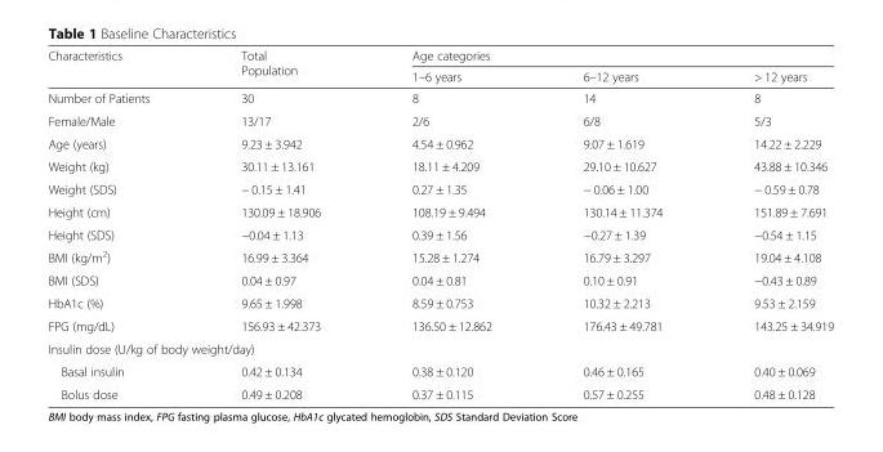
<table><thead><tr><td rowspan="2">Characteristics</td><td rowspan="2">Total Population</td><td colspan="3">Age categories</td></tr><tr><td>1–6 years</td><td>6–12 years</td><td>&gt; 12 years</td></tr></thead><tbody><tr><td>Number of Patients</td><td>30</td><td>8</td><td>14</td><td>8</td></tr><tr><td>Female/Male</td><td>13/17</td><td>2/6</td><td>6/8</td><td>5/3</td></tr><tr><td>Age (years)</td><td>9.23 ± 3.942</td><td>4.54 ± 0.962</td><td>9.07 ± 1.619</td><td>14.22 ± 2.229</td></tr><tr><td>Weight (kg)</td><td>30.11 ± 13.161</td><td>18.11 ± 4.209</td><td>29.10 ± 10.627</td><td>43.88 ± 10.346</td></tr><tr><td>Weight (SDS)</td><td>− 0.15 ± 1.41</td><td>0.27 ± 1.35</td><td>− 0.06 ± 1.00</td><td>− 0.59 ± 0.78</td></tr><tr><td>Height (cm)</td><td>130.09 ± 18.906</td><td>108.19 ± 9.494</td><td>130.14 ± 11.374</td><td>151.89 ± 7.691</td></tr><tr><td>Height (SDS)</td><td>−0.04 ± 1.13</td><td>0.39 ± 1.56</td><td>−0.27 ± 1.39</td><td>−0.54 ± 1.15</td></tr><tr><td>BMI (kg/m<sup>2</sup>)</td><td>16.99 ± 3.364</td><td>15.28 ± 1.274</td><td>16.79 ± 3.297</td><td>19.04 ± 4.108</td></tr><tr><td>BMI (SDS)</td><td>0.04 ± 0.97</td><td>0.04 ± 0.81</td><td>0.10 ± 0.91</td><td>−0.43 ± 0.89</td></tr><tr><td>HbA1c (%)</td><td>9.65 ± 1.998</td><td>8.59 ± 0.753</td><td>10.32 ± 2.213</td><td>9.53 ± 2.159</td></tr><tr><td>FPG (mg/dL)</td><td>156.93 ± 42.373</td><td>136.50 ± 12.862</td><td>176.43 ± 49.781</td><td>143.25 ± 34.919</td></tr><tr><td colspan="5">Insulin dose (U/kg of body weight/day)</td></tr><tr><td>Basal insulin</td><td>0.42 ± 0.134</td><td>0.38 ± 0.120</td><td>0.46 ± 0.165</td><td>0.40 ± 0.069</td></tr><tr><td>Bolus dose</td><td>0.49 ± 0.208</td><td>0.37 ± 0.115</td><td>0.57 ± 0.255</td><td>0.48 ± 0.128</td></tr></tbody></table>